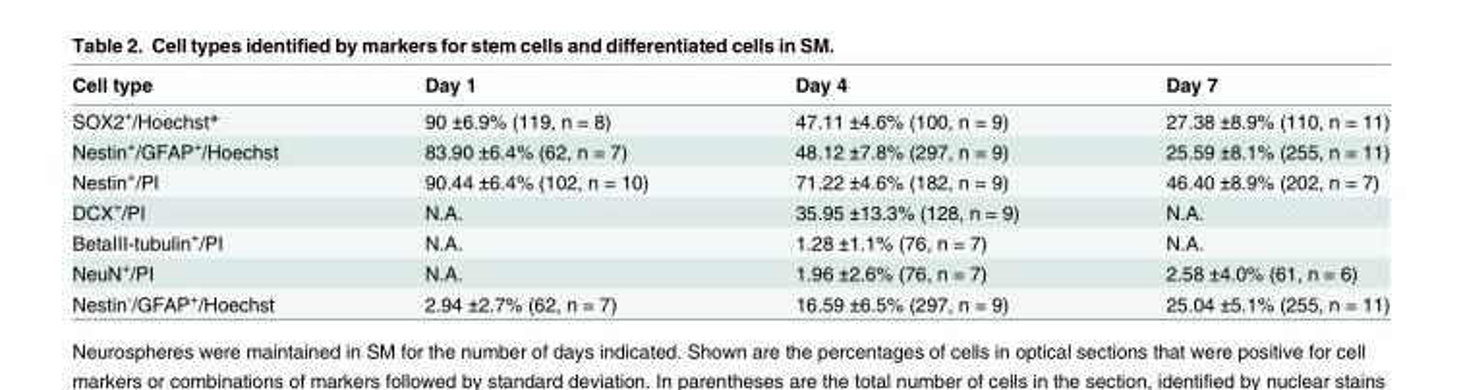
<table><thead><tr><td>Cell type</td><td>Day 1</td><td>Day 4</td><td>Day 7</td></tr></thead><tbody><tr><td>SOX2<sup>+</sup>/Hoechst*</td><td>90 ±6.9% (119, n = 8)</td><td>47.11 ±4.6% (100, n = 9)</td><td>27.38 ±8.9% (110, n = 11)</td></tr><tr><td>Nestin<sup>+</sup>/GFAP<sup>+</sup>/Hoechst</td><td>83.90 ±6.4% (62, n = 7)</td><td>48.12 ±7.8% (297, n = 9)</td><td>25.59 ±8.1% (255, n = 11)</td></tr><tr><td>Nestin<sup>+</sup>/PI</td><td>90.44 ±6.4% (102, n = 10)</td><td>71.22 ±4.6% (182, n = 9)</td><td>46.40 ±8.9% (202, n = 7)</td></tr><tr><td>DCX<sup>+</sup>/PI</td><td>N.A.</td><td>35.95 ±13.3% (128, n = 9)</td><td>N.A.</td></tr><tr><td>BetaIII-tubulin<sup>+</sup>/PI</td><td>N.A.</td><td>1.28 ±1.1% (76, n = 7)</td><td>N.A.</td></tr><tr><td>NeuN<sup>+</sup>/PI</td><td>N.A.</td><td>1.96 ±2.6% (76, n = 7)</td><td>2.58 ±4.0% (61, n = 6)</td></tr><tr><td>Nestin<sup>-</sup>/GFAP<sup>+</sup>/Hoechst</td><td>2.94 ±2.7% (62, n = 7)</td><td>16.59 ±6.5% (297, n = 9)</td><td>25.04 ±5.1% (255, n = 11)</td></tr></tbody></table>